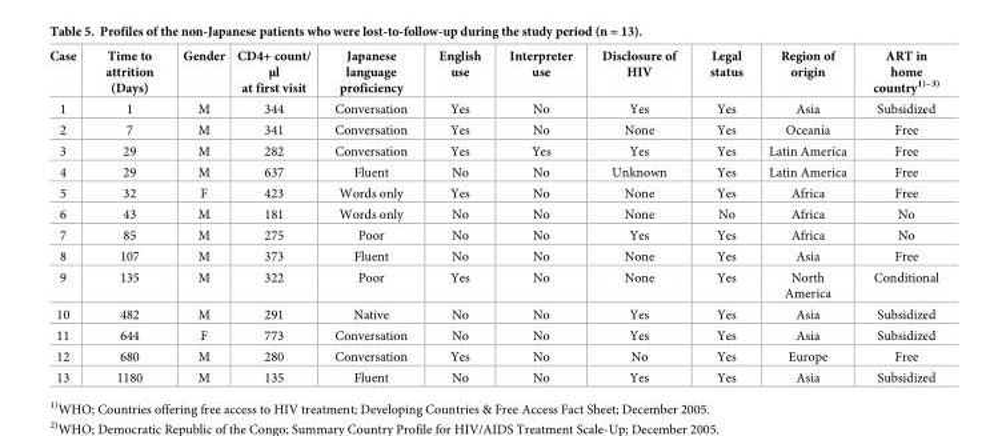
<table><thead><tr><td>Case</td><td>Time to attrition (Days)</td><td>Gender</td><td>CD4+ count/ μl at first visit</td><td>Japanese language proficiency</td><td>English use</td><td>Interpreter use</td><td>Disclosure of HIV</td><td>Legal status</td><td>Region of origin</td><td>ART in home country<sup>1)–3)</sup></td></tr></thead><tbody><tr><td>1</td><td>1</td><td>M</td><td>344</td><td>Conversation</td><td>Yes</td><td>No</td><td>Yes</td><td>Yes</td><td>Asia</td><td>Subsidized</td></tr><tr><td>2</td><td>7</td><td>M</td><td>341</td><td>Conversation</td><td>Yes</td><td>No</td><td>None</td><td>Yes</td><td>Oceania</td><td>Free</td></tr><tr><td>3</td><td>29</td><td>M</td><td>282</td><td>Conversation</td><td>Yes</td><td>Yes</td><td>Yes</td><td>Yes</td><td>Latin America</td><td>Free</td></tr><tr><td>4</td><td>29</td><td>M</td><td>637</td><td>Fluent</td><td>No</td><td>No</td><td>Unknown</td><td>Yes</td><td>Latin America</td><td>Free</td></tr><tr><td>5</td><td>32</td><td>F</td><td>423</td><td>Words only</td><td>Yes</td><td>No</td><td>None</td><td>Yes</td><td>Africa</td><td>Free</td></tr><tr><td>6</td><td>43</td><td>M</td><td>181</td><td>Words only</td><td>No</td><td>No</td><td>None</td><td>No</td><td>Africa</td><td>No</td></tr><tr><td>7</td><td>85</td><td>M</td><td>275</td><td>Poor</td><td>No</td><td>No</td><td>Yes</td><td>Yes</td><td>Africa</td><td>No</td></tr><tr><td>8</td><td>107</td><td>M</td><td>373</td><td>Fluent</td><td>No</td><td>No</td><td>None</td><td>Yes</td><td>Asia</td><td>Free</td></tr><tr><td>9</td><td>135</td><td>M</td><td>322</td><td>Poor</td><td>Yes</td><td>No</td><td>None</td><td>Yes</td><td>North America</td><td>Conditional</td></tr><tr><td>10</td><td>482</td><td>M</td><td>291</td><td>Native</td><td>No</td><td>No</td><td>Yes</td><td>Yes</td><td>Asia</td><td>Subsidized</td></tr><tr><td>11</td><td>644</td><td>F</td><td>773</td><td>Conversation</td><td>No</td><td>No</td><td>Yes</td><td>Yes</td><td>Asia</td><td>Subsidized</td></tr><tr><td>12</td><td>680</td><td>M</td><td>280</td><td>Conversation</td><td>Yes</td><td>No</td><td>No</td><td>Yes</td><td>Europe</td><td>Free</td></tr><tr><td>13</td><td>1180</td><td>M</td><td>135</td><td>Fluent</td><td>No</td><td>No</td><td>Yes</td><td>Yes</td><td>Asia</td><td>Subsidized</td></tr></tbody></table>